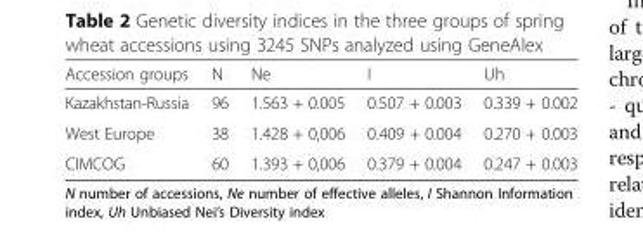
<table><thead><tr><td>Accession groups</td><td>N</td><td>Ne</td><td>I</td><td>Uh</td></tr></thead><tbody><tr><td>Kazakhstan-Russia</td><td>96</td><td>1.563 + 0.005</td><td>0.507 + 0.003</td><td>0.339 + 0.002</td></tr><tr><td>West Europe</td><td>38</td><td>1.428 + 0,006</td><td>0.409 + 0.004</td><td>0.270 + 0.003</td></tr><tr><td>CIMCOG</td><td>60</td><td>1.393 + 0,006</td><td>0.379 + 0.004</td><td>0.247 + 0.003</td></tr></tbody></table>